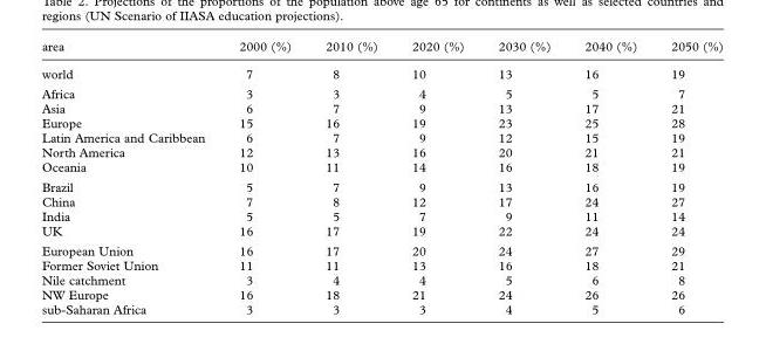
<table><thead><tr><td>area</td><td>2000 (%)</td><td>2010 (%)</td><td>2020 (%)</td><td>2030 (%)</td><td>2040 (%)</td><td>2050 (%)</td></tr></thead><tbody><tr><td>world</td><td>7</td><td>8</td><td>10</td><td>13</td><td>16</td><td>19</td></tr><tr><td>Africa</td><td>3</td><td>3</td><td>4</td><td>5</td><td>5</td><td>7</td></tr><tr><td>Asia</td><td>6</td><td>7</td><td>9</td><td>13</td><td>17</td><td>21</td></tr><tr><td>Europe</td><td>15</td><td>16</td><td>19</td><td>23</td><td>25</td><td>28</td></tr><tr><td>Latin America and Caribbean</td><td>6</td><td>7</td><td>9</td><td>12</td><td>15</td><td>19</td></tr><tr><td>North America</td><td>12</td><td>13</td><td>16</td><td>20</td><td>21</td><td>21</td></tr><tr><td>Oceania</td><td>10</td><td>11</td><td>14</td><td>16</td><td>18</td><td>19</td></tr><tr><td>Brazil</td><td>5</td><td>7</td><td>9</td><td>13</td><td>16</td><td>19</td></tr><tr><td>China</td><td>7</td><td>8</td><td>12</td><td>17</td><td>24</td><td>27</td></tr><tr><td>India</td><td>5</td><td>5</td><td>7</td><td>9</td><td>11</td><td>14</td></tr><tr><td>UK</td><td>16</td><td>17</td><td>19</td><td>22</td><td>24</td><td>24</td></tr><tr><td>European Union</td><td>16</td><td>17</td><td>20</td><td>24</td><td>27</td><td>29</td></tr><tr><td>Former Soviet Union</td><td>11</td><td>11</td><td>13</td><td>16</td><td>18</td><td>21</td></tr><tr><td>Nile catchment</td><td>3</td><td>4</td><td>4</td><td>5</td><td>6</td><td>8</td></tr><tr><td>NW Europe</td><td>16</td><td>18</td><td>21</td><td>24</td><td>26</td><td>26</td></tr><tr><td>sub-Saharan Africa</td><td>3</td><td>3</td><td>3</td><td>4</td><td>5</td><td>6</td></tr></tbody></table>